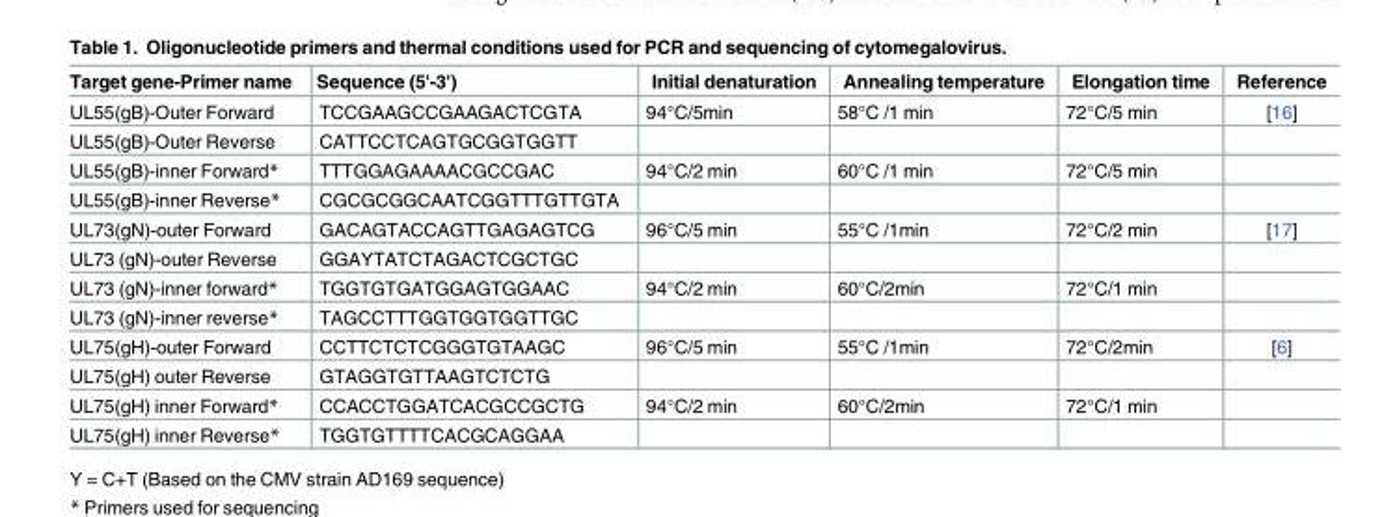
<table><thead><tr><td>Target gene-Primer name</td><td>Sequence (5&#x27;-3&#x27;)</td><td>Initial denaturation</td><td>Annealing temperature</td><td>Elongation time</td><td>Reference</td></tr></thead><tbody><tr><td>UL55(gB)-Outer Forward</td><td>TCCGAAGCCGAAGACTCGTA</td><td>94°C/5min</td><td>58°C /1 min</td><td>72°C/5 min</td><td>[16]</td></tr><tr><td>UL55(gB)-Outer Reverse</td><td>CATTCCTCAGTGCGGTGGTT</td><td></td><td></td><td></td><td></td></tr><tr><td>UL55(gB)-inner Forward*</td><td>TTTGGAGAAAACGCCGAC</td><td>94°C/2 min</td><td>60°C /1 min</td><td>72°C/5 min</td><td></td></tr><tr><td>UL55(gB)-inner Reverse*</td><td>CGCGCGGCAATCGGTTTGTTGTA</td><td></td><td></td><td></td><td></td></tr><tr><td>UL73(gN)-outer Forward</td><td>GACAGTACCAGTTGAGAGTCG</td><td>96°C/5 min</td><td>55°C /1min</td><td>72°C/2 min</td><td>[17]</td></tr><tr><td>UL73 (gN)-outer Reverse</td><td>GGAYTATCTAGACTCGCTGC</td><td></td><td></td><td></td><td></td></tr><tr><td>UL73 (gN)-inner forward*</td><td>TGGTGTGATGGAGTGGAAC</td><td>94°C/2 min</td><td>60°C/2min</td><td>72°C/1 min</td><td></td></tr><tr><td>UL73 (gN)-inner reverse*</td><td>TAGCCTTTGGTGGTGGTTGC</td><td></td><td></td><td></td><td></td></tr><tr><td>UL75(gH)-outer Forward</td><td>CCTTCTCTCGGGTGTAAGC</td><td>96°C/5 min</td><td>55°C /1min</td><td>72°C/2min</td><td>[6]</td></tr><tr><td>UL75(gH) outer Reverse</td><td>GTAGGTGTTAAGTCTCTG</td><td></td><td></td><td></td><td></td></tr><tr><td>UL75(gH) inner Forward*</td><td>CCACCTGGATCACGCCGCTG</td><td>94°C/2 min</td><td>60°C/2min</td><td>72°C/1 min</td><td></td></tr><tr><td>UL75(gH) inner Reverse*</td><td>TGGTGTTTTCACGCAGGAA</td><td></td><td></td><td></td><td></td></tr></tbody></table>